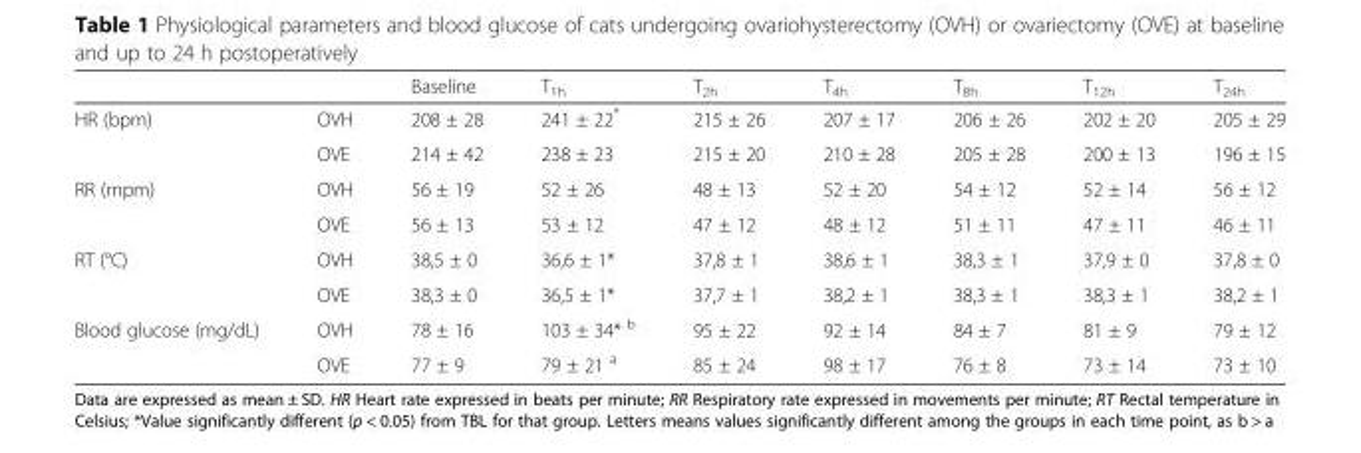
<table><thead><tr><td></td><td></td><td>Baseline</td><td>T<sub>1h</sub></td><td>T<sub>2h</sub></td><td>T<sub>4h</sub></td><td>T<sub>8h</sub></td><td>T<sub>12h</sub></td><td>T<sub>24h</sub></td></tr></thead><tbody><tr><td rowspan="2">HR (bpm)</td><td>OVH</td><td>208 ± 28</td><td>241 ± 22*</td><td>215 ± 26</td><td>207 ± 17</td><td>206 ± 26</td><td>202 ± 20</td><td>205 ± 29</td></tr><tr><td>OVE</td><td>214 ± 42</td><td>238 ± 23</td><td>215 ± 20</td><td>210 ± 28</td><td>205 ± 28</td><td>200 ± 13</td><td>196 ± 15</td></tr><tr><td rowspan="2">RR (mpm)</td><td>OVH</td><td>56 ± 19</td><td>52 ± 26</td><td>48 ± 13</td><td>52 ± 20</td><td>54 ± 12</td><td>52 ± 14</td><td>56 ± 12</td></tr><tr><td>OVE</td><td>56 ± 13</td><td>53 ± 12</td><td>47 ± 12</td><td>48 ± 12</td><td>51 ± 11</td><td>47 ± 11</td><td>46 ± 11</td></tr><tr><td rowspan="2">RT (°C)</td><td>OVH</td><td>38,5 ± 0</td><td>36,6 ± 1*</td><td>37,8 ± 1</td><td>38,6 ± 1</td><td>38,3 ± 1</td><td>37,9 ± 0</td><td>37,8 ± 0</td></tr><tr><td>OVE</td><td>38,3 ± 0</td><td>36,5 ± 1*</td><td>37,7 ± 1</td><td>38,2 ± 1</td><td>38,3 ± 1</td><td>38,3 ± 1</td><td>38,2 ± 1</td></tr><tr><td rowspan="2">Blood glucose (mg/dL)</td><td>OVH</td><td>78 ± 16</td><td>103 ± 34* <sup>b</sup></td><td>95 ± 22</td><td>92 ± 14</td><td>84 ± 7</td><td>81 ± 9</td><td>79 ± 12</td></tr><tr><td>OVE</td><td>77 ± 9</td><td>79 ± 21 <sup>a</sup></td><td>85 ± 24</td><td>98 ± 17</td><td>76 ± 8</td><td>73 ± 14</td><td>73 ± 10</td></tr></tbody></table>